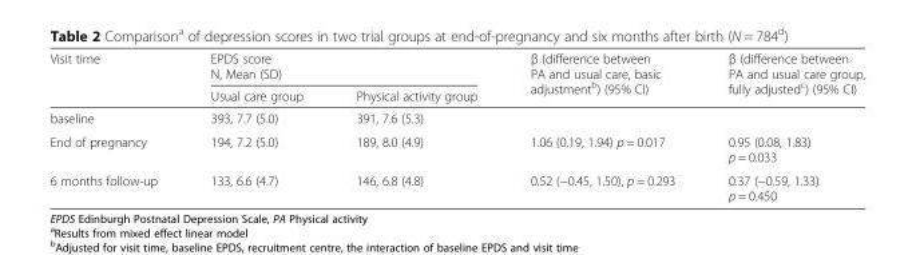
<table><thead><tr><td rowspan="2">Visit time</td><td colspan="2">EPDS score N, Mean (SD)</td><td rowspan="2">β (difference between PA and usual care, basic adjustment<sup>b</sup>) (95% CI)</td><td rowspan="2">β (difference between PA and usual care group, fully adjusted<sup>c</sup>) (95% CI)</td></tr><tr><td>Usual care group</td><td>Physical activity group</td></tr></thead><tbody><tr><td>baseline</td><td>393, 7.7 (5.0)</td><td>391, 7.6 (5.3)</td><td></td><td></td></tr><tr><td>End of pregnancy</td><td>194, 7.2 (5.0)</td><td>189, 8.0 (4.9)</td><td>1.06 (0.19, 1.94) p = 0.017</td><td>0.95 (0.08, 1.83) p = 0.033</td></tr><tr><td>6 months follow-up</td><td>133, 6.6 (4.7)</td><td>146, 6.8 (4.8)</td><td>0.52 (−0.45, 1.50), p = 0.293</td><td>0.37 (−0.59, 1.33) p = 0.450</td></tr></tbody></table>